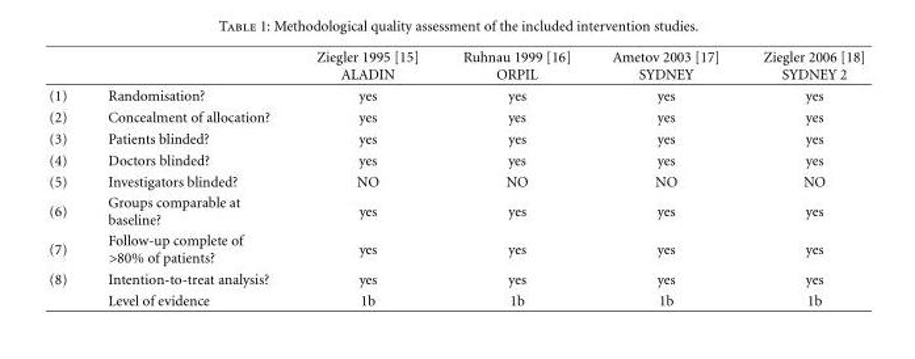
<table><thead><tr><td></td><td></td><td>Ziegler 1995 [15] ALADIN</td><td>Ruhnau 1999 [16] ORPIL</td><td>Ametov 2003 [17] SYDNEY</td><td>Ziegler 2006 [18] SYDNEY 2</td></tr></thead><tbody><tr><td>(1)</td><td>Randomisation?</td><td>yes</td><td>yes</td><td>yes</td><td>yes</td></tr><tr><td>(2)</td><td>Concealment of allocation?</td><td>yes</td><td>yes</td><td>yes</td><td>yes</td></tr><tr><td>(3)</td><td>Patients blinded?</td><td>yes</td><td>yes</td><td>yes</td><td>yes</td></tr><tr><td>(4)</td><td>Doctors blinded?</td><td>yes</td><td>yes</td><td>yes</td><td>yes</td></tr><tr><td>(5)</td><td>Investigators blinded?</td><td>NO</td><td>NO</td><td>NO</td><td>NO</td></tr><tr><td>(6)</td><td>Groups comparable at baseline?</td><td>yes</td><td>yes</td><td>yes</td><td>yes</td></tr><tr><td>(7)</td><td>Follow-up complete of &gt;80% of patients?</td><td>yes</td><td>yes</td><td>yes</td><td>yes</td></tr><tr><td rowspan="2">(8)</td><td>Intention-to-treat analysis?</td><td>yes</td><td>yes</td><td>yes</td><td>yes</td></tr><tr><td>Level of evidence</td><td>1b</td><td>1b</td><td>1b</td><td>1b</td></tr></tbody></table>